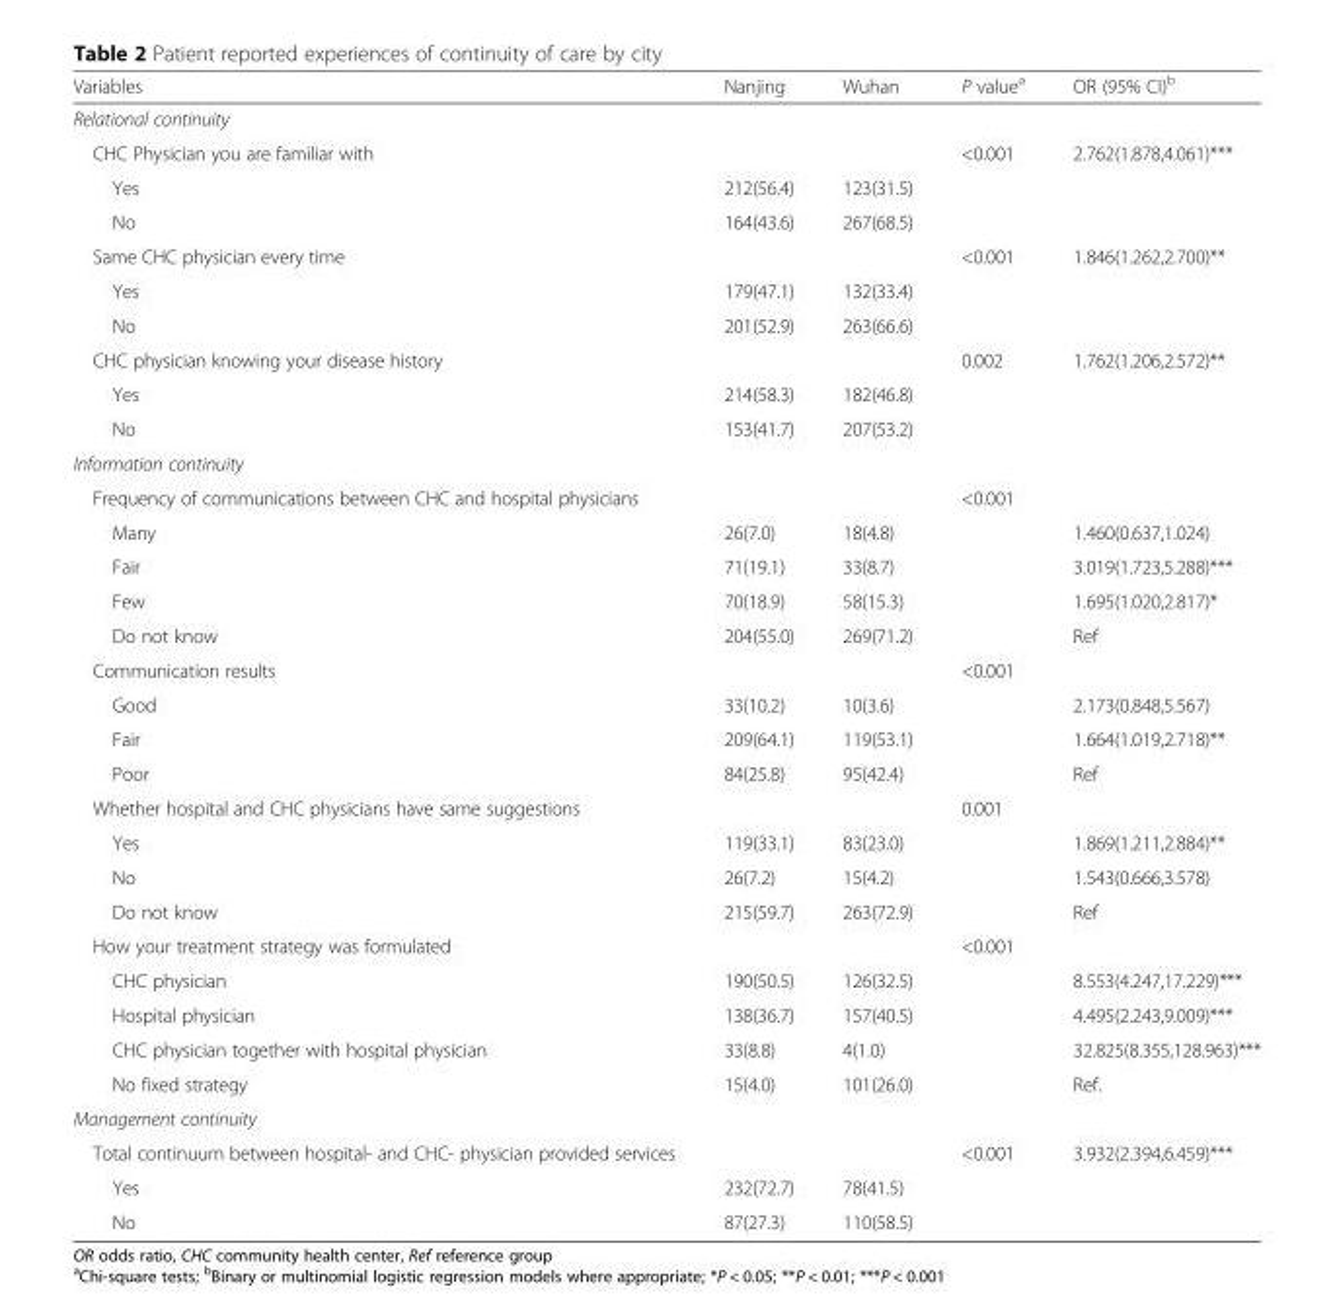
<table><thead><tr><td>Variables</td><td>Nanjing</td><td>Wuhan</td><td>P value<sup>a</sup></td><td>OR (95% CI)<sup>b</sup></td></tr></thead><tbody><tr><td colspan="5">Relational continuity</td></tr><tr><td>CHC Physician you are familiar with</td><td></td><td></td><td>&lt;0.001</td><td>2.762(1.878,4.061)***</td></tr><tr><td>Yes</td><td>212(56.4)</td><td>123(31.5)</td><td></td><td rowspan="2"></td></tr><tr><td>No</td><td>164(43.6)</td><td>267(68.5)</td><td></td></tr><tr><td>Same CHC physician every time</td><td></td><td></td><td>&lt;0.001</td><td>1.846(1.262,2.700)**</td></tr><tr><td>Yes</td><td>179(47.1)</td><td>132(33.4)</td><td></td><td rowspan="2"></td></tr><tr><td>No</td><td>201(52.9)</td><td>263(66.6)</td><td></td></tr><tr><td>CHC physician knowing your disease history</td><td></td><td></td><td>0.002</td><td>1.762(1.206,2.572)**</td></tr><tr><td>Yes</td><td>214(58.3)</td><td>182(46.8)</td><td></td><td rowspan="2"></td></tr><tr><td>No</td><td>153(41.7)</td><td>207(53.2)</td><td></td></tr><tr><td colspan="5">Information continuity</td></tr><tr><td>Frequency of communications between CHC and hospital physicians</td><td></td><td></td><td>&lt;0.001</td><td></td></tr><tr><td>Many</td><td>26(7.0)</td><td>18(4.8)</td><td></td><td>1.460(0.637,1.024)</td></tr><tr><td>Fair</td><td>71(19.1)</td><td>33(8.7)</td><td></td><td>3.019(1.723,5.288)***</td></tr><tr><td>Few</td><td>70(18.9)</td><td>58(15.3)</td><td></td><td>1.695(1.020,2.817)*</td></tr><tr><td>Do not know</td><td>204(55.0)</td><td>269(71.2)</td><td></td><td>Ref</td></tr><tr><td>Communication results</td><td></td><td></td><td>&lt;0.001</td><td></td></tr><tr><td>Good</td><td>33(10.2)</td><td>10(3.6)</td><td></td><td>2.173(0.848,5.567)</td></tr><tr><td>Fair</td><td>209(64.1)</td><td>119(53.1)</td><td></td><td>1.664(1.019,2.718)**</td></tr><tr><td>Poor</td><td>84(25.8)</td><td>95(42.4)</td><td></td><td>Ref</td></tr><tr><td>Whether hospital and CHC physicians have same suggestions</td><td></td><td></td><td>0.001</td><td></td></tr><tr><td>Yes</td><td>119(33.1)</td><td>83(23.0)</td><td></td><td>1.869(1.211,2.884)**</td></tr><tr><td>No</td><td>26(7.2)</td><td>15(4.2)</td><td></td><td>1.543(0.666,3.578)</td></tr><tr><td>Do not know</td><td>215(59.7)</td><td>263(72.9)</td><td></td><td>Ref</td></tr><tr><td>How your treatment strategy was formulated</td><td></td><td></td><td>&lt;0.001</td><td></td></tr><tr><td>CHC physician</td><td>190(50.5)</td><td>126(32.5)</td><td></td><td>8.553(4.247,17.229)***</td></tr><tr><td>Hospital physician</td><td>138(36.7)</td><td>157(40.5)</td><td></td><td>4.495(2.243,9.009)***</td></tr><tr><td>CHC physician together with hospital physician</td><td>33(8.8)</td><td>4(1.0)</td><td></td><td>32.825(8.355,128.963)***</td></tr><tr><td>No fixed strategy</td><td>15(4.0)</td><td>101(26.0)</td><td></td><td>Ref.</td></tr><tr><td colspan="5">Management continuity</td></tr><tr><td>Total continuum between hospital- and CHC- physician provided services</td><td></td><td></td><td>&lt;0.001</td><td>3.932(2.394,6.459)***</td></tr><tr><td>Yes</td><td>232(72.7)</td><td>78(41.5)</td><td></td><td rowspan="2"></td></tr><tr><td>No</td><td>87(27.3)</td><td>110(58.5)</td><td></td></tr></tbody></table>